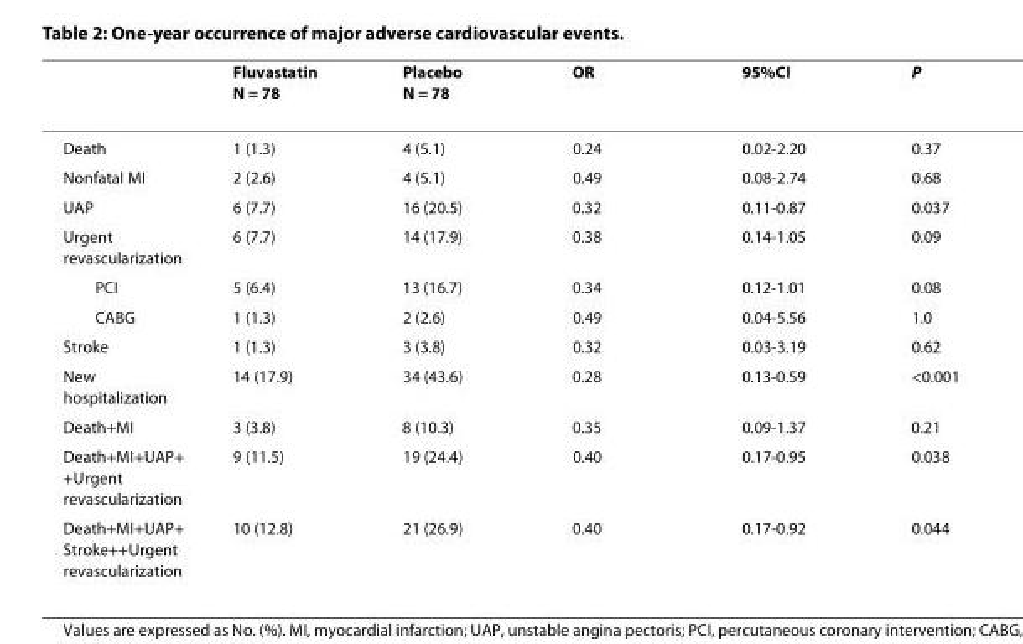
<table><thead><tr><td></td><td>Fluvastatin N = 78</td><td>Placebo N = 78</td><td>OR</td><td>95%CI</td><td>P</td></tr></thead><tbody><tr><td>Death</td><td>1 (1.3)</td><td>4 (5.1)</td><td>0.24</td><td>0.02-2.20</td><td>0.37</td></tr><tr><td>Nonfatal MI</td><td>2 (2.6)</td><td>4 (5.1)</td><td>0.49</td><td>0.08-2.74</td><td>0.68</td></tr><tr><td>UAP</td><td>6 (7.7)</td><td>16 (20.5)</td><td>0.32</td><td>0.11-0.87</td><td>0.037</td></tr><tr><td>Urgent revascularization</td><td>6 (7.7)</td><td>14 (17.9)</td><td>0.38</td><td>0.14-1.05</td><td>0.09</td></tr><tr><td>PCI</td><td>5 (6.4)</td><td>13 (16.7)</td><td>0.34</td><td>0.12-1.01</td><td>0.08</td></tr><tr><td>CABG</td><td>1 (1.3)</td><td>2 (2.6)</td><td>0.49</td><td>0.04-5.56</td><td>1.0</td></tr><tr><td>Stroke</td><td>1 (1.3)</td><td>3 (3.8)</td><td>0.32</td><td>0.03-3.19</td><td>0.62</td></tr><tr><td>New hospitalization</td><td>14 (17.9)</td><td>34 (43.6)</td><td>0.28</td><td>0.13-0.59</td><td>&lt;0.001</td></tr><tr><td>Death+MI</td><td>3 (3.8)</td><td>8 (10.3)</td><td>0.35</td><td>0.09-1.37</td><td>0.21</td></tr><tr><td>Death+MI+UAP+ +Urgent revascularization</td><td>9 (11.5)</td><td>19 (24.4)</td><td>0.40</td><td>0.17-0.95</td><td>0.038</td></tr><tr><td>Death+MI+UAP+ Stroke++Urgent revascularization</td><td>10 (12.8)</td><td>21 (26.9)</td><td>0.40</td><td>0.17-0.92</td><td>0.044</td></tr></tbody></table>